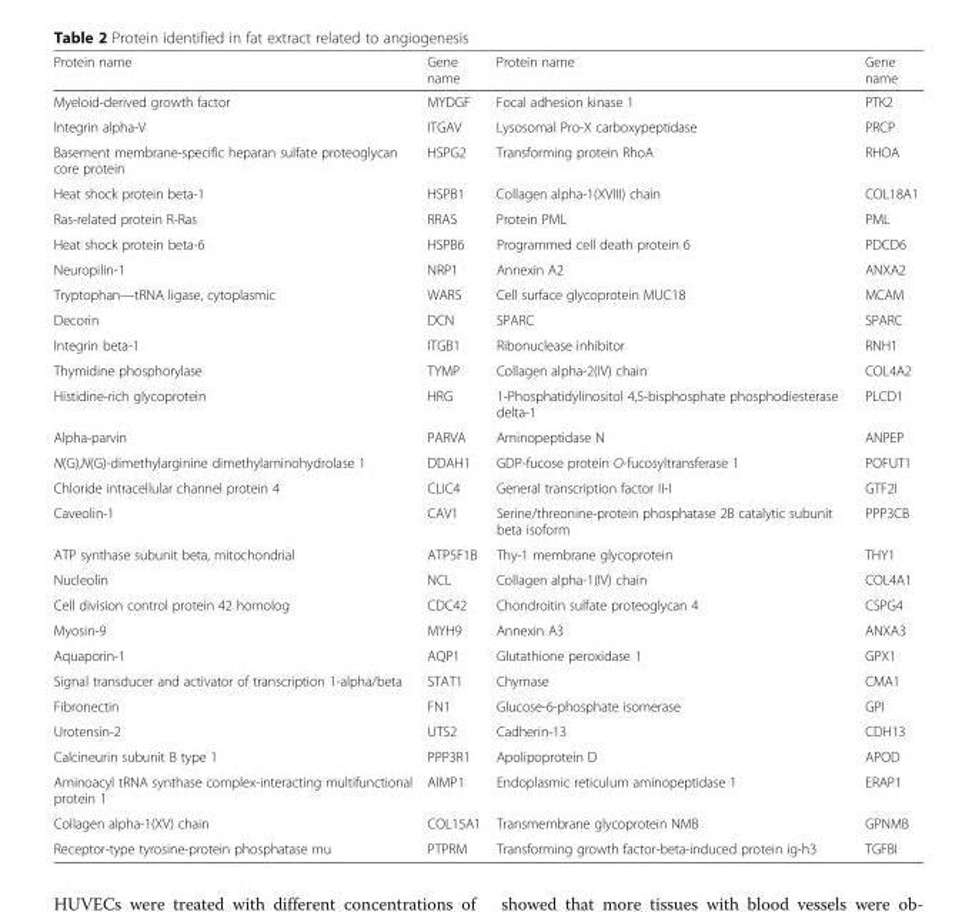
<table><thead><tr><td>Protein name</td><td>Gene name</td><td>Protein name</td><td>Gene name</td></tr></thead><tbody><tr><td>Myeloid-derived growth factor</td><td>MYDGF</td><td>Focal adhesion kinase 1</td><td>PTK2</td></tr><tr><td>Integrin alpha-V</td><td>ITGAV</td><td>Lysosomal Pro-X carboxypeptidase</td><td>PRCP</td></tr><tr><td>Basement membrane-specific heparan sulfate proteoglycan core protein</td><td>HSPG2</td><td>Transforming protein RhoA</td><td>RHOA</td></tr><tr><td>Heat shock protein beta-1</td><td>HSPB1</td><td>Collagen alpha-1(XVIII) chain</td><td>COL18A1</td></tr><tr><td>Ras-related protein R-Ras</td><td>RRAS</td><td>Protein PML</td><td>PML</td></tr><tr><td>Heat shock protein beta-6</td><td>HSPB6</td><td>Programmed cell death protein 6</td><td>PDCD6</td></tr><tr><td>Neuropilin-1</td><td>NRP1</td><td>Annexin A2</td><td>ANXA2</td></tr><tr><td>Tryptophan—tRNA ligase, cytoplasmic</td><td>WARS</td><td>Cell surface glycoprotein MUC18</td><td>MCAM</td></tr><tr><td>Decorin</td><td>DCN</td><td>SPARC</td><td>SPARC</td></tr><tr><td>Integrin beta-1</td><td>ITGB1</td><td>Ribonuclease inhibitor</td><td>RNH1</td></tr><tr><td>Thymidine phosphorylase</td><td>TYMP</td><td>Collagen alpha-2(IV) chain</td><td>COL4A2</td></tr><tr><td>Histidine-rich glycoprotein</td><td>HRG</td><td>1-Phosphatidylinositol 4,5-bisphosphate phosphodiesterase delta-1</td><td>PLCD1</td></tr><tr><td>Alpha-parvin</td><td>PARVA</td><td>Aminopeptidase N</td><td>ANPEP</td></tr><tr><td>N(G),N(G)-dimethylarginine dimethylaminohydrolase 1</td><td>DDAH1</td><td>GDP-fucose protein O-fucosyltransferase 1</td><td>POFUT1</td></tr><tr><td>Chloride intracellular channel protein 4</td><td>CLIC4</td><td>General transcription factor II-I</td><td>GTF2I</td></tr><tr><td>Caveolin-1</td><td>CAV1</td><td>Serine/threonine-protein phosphatase 2B catalytic subunit beta isoform</td><td>PPP3CB</td></tr><tr><td>ATP synthase subunit beta, mitochondrial</td><td>ATP5F1B</td><td>Thy-1 membrane glycoprotein</td><td>THY1</td></tr><tr><td>Nucleolin</td><td>NCL</td><td>Collagen alpha-1(IV) chain</td><td>COL4A1</td></tr><tr><td>Cell division control protein 42 homolog</td><td>CDC42</td><td>Chondroitin sulfate proteoglycan 4</td><td>CSPG4</td></tr><tr><td>Myosin-9</td><td>MYH9</td><td>Annexin A3</td><td>ANXA3</td></tr><tr><td>Aquaporin-1</td><td>AQP1</td><td>Glutathione peroxidase 1</td><td>GPX1</td></tr><tr><td>Signal transducer and activator of transcription 1-alpha/beta</td><td>STAT1</td><td>Chymase</td><td>CMA1</td></tr><tr><td>Fibronectin</td><td>FN1</td><td>Glucose-6-phosphate isomerase</td><td>GPI</td></tr><tr><td>Urotensin-2</td><td>UTS2</td><td>Cadherin-13</td><td>CDH13</td></tr><tr><td>Calcineurin subunit B type 1</td><td>PPP3R1</td><td>Apolipoprotein D</td><td>APOD</td></tr><tr><td>Aminoacyl tRNA synthase complex-interacting multifunctional protein 1</td><td>AIMP1</td><td>Endoplasmic reticulum aminopeptidase 1</td><td>ERAP1</td></tr><tr><td>Collagen alpha-1(XV) chain</td><td>COL15A1</td><td>Transmembrane glycoprotein NMB</td><td>GPNMB</td></tr><tr><td>Receptor-type tyrosine-protein phosphatase mu</td><td>PTPRM</td><td>Transforming growth factor-beta-induced protein ig-h3</td><td>TGFBI</td></tr></tbody></table>